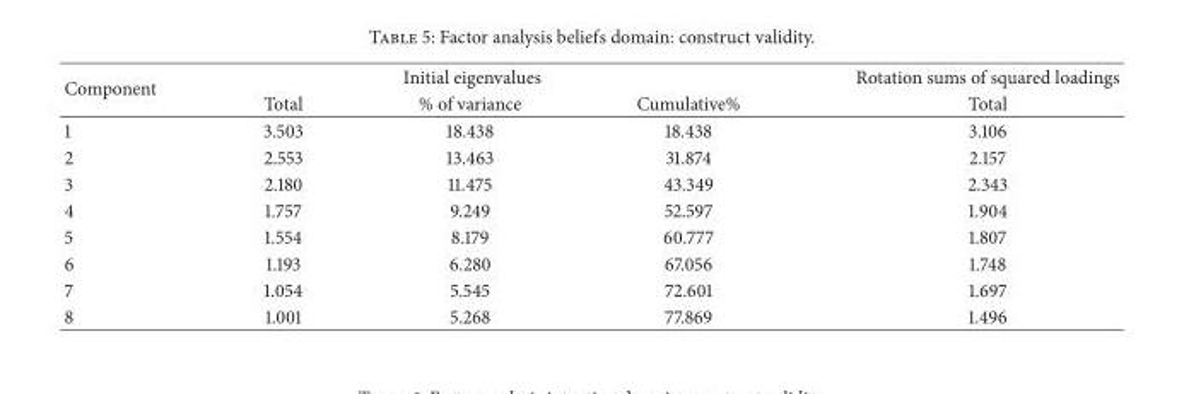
<table><thead><tr><td rowspan="2">Component</td><td colspan="3">Initial eigenvalues</td><td rowspan="2">Rotation sums of squared loadings Total</td></tr><tr><td>Total</td><td>% of variance</td><td>Cumulative%</td></tr></thead><tbody><tr><td>1</td><td>3.503</td><td>18.438</td><td>18.438</td><td>3.106</td></tr><tr><td>2</td><td>2.553</td><td>13.463</td><td>31.874</td><td>2.157</td></tr><tr><td>3</td><td>2.180</td><td>11.475</td><td>43.349</td><td>2.343</td></tr><tr><td>4</td><td>1.757</td><td>9.249</td><td>52.597</td><td>1.904</td></tr><tr><td>5</td><td>1.554</td><td>8.179</td><td>60.777</td><td>1.807</td></tr><tr><td>6</td><td>1.193</td><td>6.280</td><td>67.056</td><td>1.748</td></tr><tr><td>7</td><td>1.054</td><td>5.545</td><td>72.601</td><td>1.697</td></tr><tr><td>8</td><td>1.001</td><td>5.268</td><td>77.869</td><td>1.496</td></tr></tbody></table>